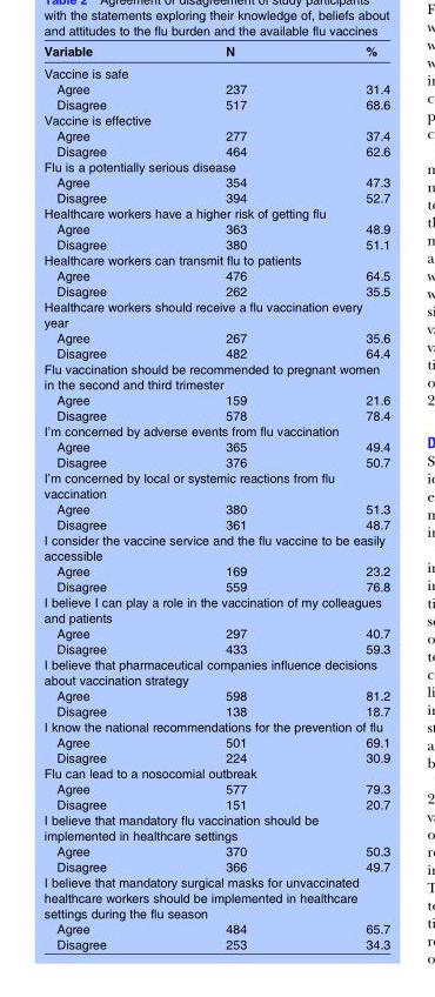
<table><thead><tr><td>Variable</td><td>N</td><td>%</td></tr></thead><tbody><tr><td colspan="3">Vaccine is safe</td></tr><tr><td>Agree</td><td>237</td><td>31.4</td></tr><tr><td>Disagree</td><td>517</td><td>68.6</td></tr><tr><td colspan="3">Vaccine is effective</td></tr><tr><td>Agree</td><td>277</td><td>37.4</td></tr><tr><td>Disagree</td><td>464</td><td>62.6</td></tr><tr><td colspan="3">Flu is a potentially serious disease</td></tr><tr><td>Agree</td><td>354</td><td>47.3</td></tr><tr><td>Disagree</td><td>394</td><td>52.7</td></tr><tr><td colspan="3">Healthcare workers have a higher risk of getting flu</td></tr><tr><td>Agree</td><td>363</td><td>48.9</td></tr><tr><td>Disagree</td><td>380</td><td>51.1</td></tr><tr><td colspan="3">Healthcare workers can transmit flu to patients</td></tr><tr><td>Agree</td><td>476</td><td>64.5</td></tr><tr><td>Disagree</td><td>262</td><td>35.5</td></tr><tr><td colspan="3">Healthcare workers should receive a flu vaccination every year</td></tr><tr><td>Agree</td><td>267</td><td>35.6</td></tr><tr><td>Disagree</td><td>482</td><td>64.4</td></tr><tr><td colspan="3">Flu vaccination should be recommended to pregnant women in the second and third trimester</td></tr><tr><td>Agree</td><td>159</td><td>21.6</td></tr><tr><td>Disagree</td><td>578</td><td>78.4</td></tr><tr><td colspan="3">I’m concerned by adverse events from flu vaccination</td></tr><tr><td>Agree</td><td>365</td><td>49.4</td></tr><tr><td>Disagree</td><td>376</td><td>50.7</td></tr><tr><td colspan="3">I’m concerned by local or systemic reactions from flu vaccination</td></tr><tr><td>Agree</td><td>380</td><td>51.3</td></tr><tr><td>Disagree</td><td>361</td><td>48.7</td></tr><tr><td colspan="3">I consider the vaccine service and the flu vaccine to be easily accessible</td></tr><tr><td>Agree</td><td>169</td><td>23.2</td></tr><tr><td>Disagree</td><td>559</td><td>76.8</td></tr><tr><td colspan="3">I believe I can play a role in the vaccination of my colleagues and patients</td></tr><tr><td>Agree</td><td>297</td><td>40.7</td></tr><tr><td>Disagree</td><td>433</td><td>59.3</td></tr><tr><td colspan="3">I believe that pharmaceutical companies influence decisions about vaccination strategy</td></tr><tr><td>Agree</td><td>598</td><td>81.2</td></tr><tr><td>Disagree</td><td>138</td><td>18.7</td></tr><tr><td colspan="3">I know the national recommendations for the prevention of flu</td></tr><tr><td>Agree</td><td>501</td><td>69.1</td></tr><tr><td>Disagree</td><td>224</td><td>30.9</td></tr><tr><td colspan="3">Flu can lead to a nosocomial outbreak</td></tr><tr><td>Agree</td><td>577</td><td>79.3</td></tr><tr><td>Disagree</td><td>151</td><td>20.7</td></tr><tr><td colspan="3">I believe that mandatory flu vaccination should be implemented in healthcare settings</td></tr><tr><td>Agree</td><td>370</td><td>50.3</td></tr><tr><td>Disagree</td><td>366</td><td>49.7</td></tr><tr><td colspan="3">I believe that mandatory surgical masks for unvaccinated healthcare workers should be implemented in healthcare settings during the flu season</td></tr><tr><td>Agree</td><td>484</td><td>65.7</td></tr><tr><td>Disagree</td><td>253</td><td>34.3</td></tr></tbody></table>